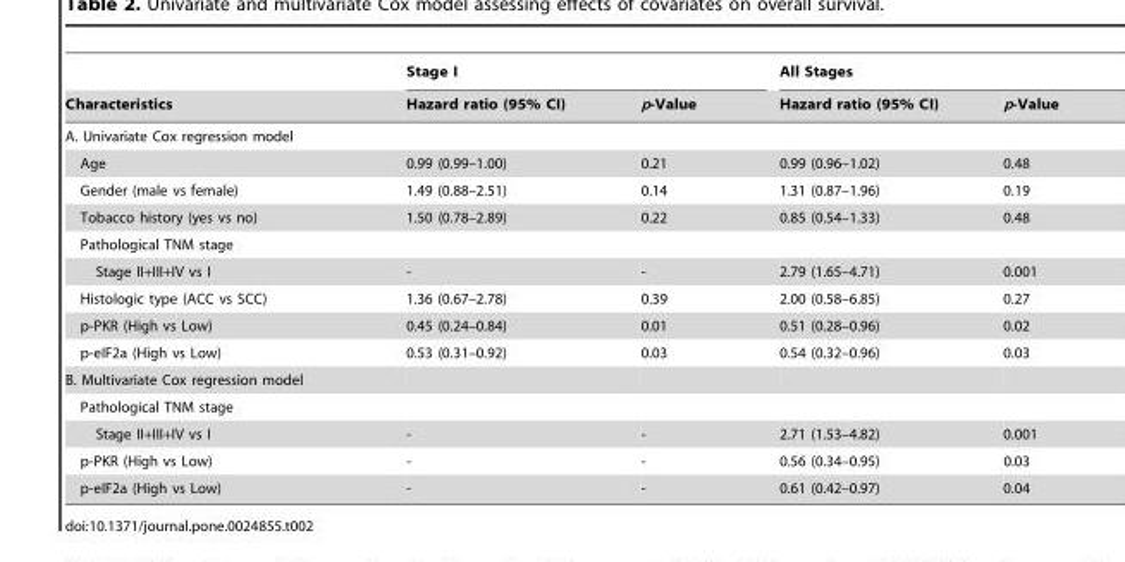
<table><thead><tr><td rowspan="2">Characteristics</td><td colspan="2">Stage I</td><td colspan="2">All Stages</td></tr><tr><td>Hazard ratio (95% CI)</td><td>p-Value</td><td>Hazard ratio (95% CI)</td><td>p-Value</td></tr></thead><tbody><tr><td colspan="5">A. Univariate Cox regression model</td></tr><tr><td>Age</td><td>0.99 (0.99–1.00)</td><td>0.21</td><td>0.99 (0.96–1.02)</td><td>0.48</td></tr><tr><td>Gender (male vs female)</td><td>1.49 (0.88–2.51)</td><td>0.14</td><td>1.31 (0.87–1.96)</td><td>0.19</td></tr><tr><td>Tobacco history (yes vs no)</td><td>1.50 (0.78–2.89)</td><td>0.22</td><td>0.85 (0.54–1.33)</td><td>0.48</td></tr><tr><td colspan="5">Pathological TNM stage</td></tr><tr><td>Stage II+III+IV vs I</td><td>-</td><td>-</td><td>2.79 (1.65–4.71)</td><td>0.001</td></tr><tr><td>Histologic type (ACC vs SCC)</td><td>1.36 (0.67–2.78)</td><td>0.39</td><td>2.00 (0.58–6.85)</td><td>0.27</td></tr><tr><td>p-PKR (High vs Low)</td><td>0.45 (0.24–0.84)</td><td>0.01</td><td>0.51 (0.28–0.96)</td><td>0.02</td></tr><tr><td>p-eIF2a (High vs Low)</td><td>0.53 (0.31–0.92)</td><td>0.03</td><td>0.54 (0.32–0.96)</td><td>0.03</td></tr><tr><td colspan="5">B. Multivariate Cox regression model</td></tr><tr><td colspan="5">Pathological TNM stage</td></tr><tr><td>Stage II+III+IV vs I</td><td>-</td><td>-</td><td>2.71 (1.53–4.82)</td><td>0.001</td></tr><tr><td>p-PKR (High vs Low)</td><td>-</td><td>-</td><td>0.56 (0.34–0.95)</td><td>0.03</td></tr><tr><td>p-eIF2a (High vs Low)</td><td>-</td><td>-</td><td>0.61 (0.42–0.97)</td><td>0.04</td></tr></tbody></table>